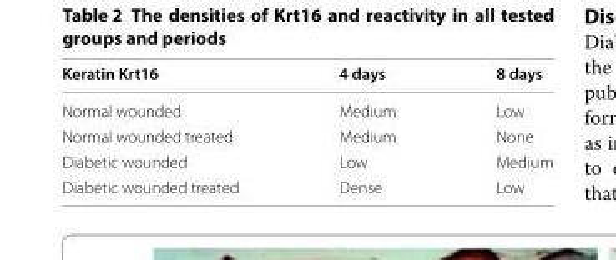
<table><thead><tr><td>Keratin Krt16</td><td>4 days</td><td>8 days</td></tr></thead><tbody><tr><td>Normal wounded</td><td>Medium</td><td>Low</td></tr><tr><td>Normal wounded treated</td><td>Medium</td><td>None</td></tr><tr><td>Diabetic wounded</td><td>Low</td><td>Medium</td></tr><tr><td>Diabetic wounded treated</td><td>Dense</td><td>Low</td></tr></tbody></table>